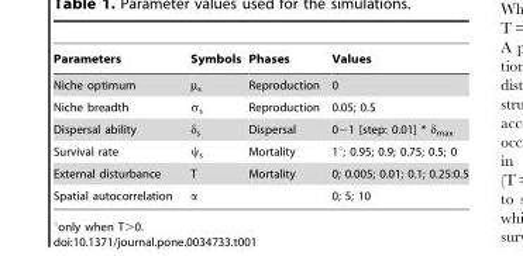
<table><thead><tr><td>Parameters</td><td>Symbols</td><td>Phases</td><td>Values</td></tr></thead><tbody><tr><td>Niche optimum</td><td>µ<sub>s</sub></td><td>Reproduction</td><td>0</td></tr><tr><td>Niche breadth</td><td>σ<sub>s</sub></td><td>Reproduction</td><td>0.05; 0.5</td></tr><tr><td>Dispersal ability</td><td>δ<sub>s</sub></td><td>Dispersal</td><td>0−1 [step: 0.01] * δ<sub>max</sub></td></tr><tr><td>Survival rate</td><td>ψ<sub>s</sub></td><td>Mortality</td><td>1°; 0.95; 0.9; 0.75; 0.5; 0</td></tr><tr><td>External disturbance</td><td>T</td><td>Mortality</td><td>0; 0.005; 0.01; 0.1; 0.25:0.5</td></tr><tr><td>Spatial autocorrelation</td><td>α</td><td></td><td>0; 5; 10</td></tr></tbody></table>